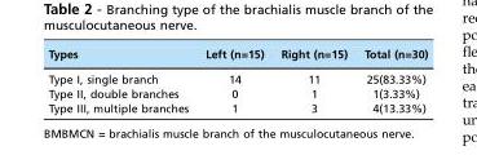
<table><thead><tr><td>Types</td><td>Left (n=15)</td><td>Right (n=15)</td><td>Total (n=30)</td></tr></thead><tbody><tr><td>Type I, single branch</td><td>14</td><td>11</td><td>25(83.33%)</td></tr><tr><td>Type II, double branches</td><td>0</td><td>1</td><td>1(3.33%)</td></tr><tr><td>Type III, multiple branches</td><td>1</td><td>3</td><td>4(13.33%)</td></tr></tbody></table>